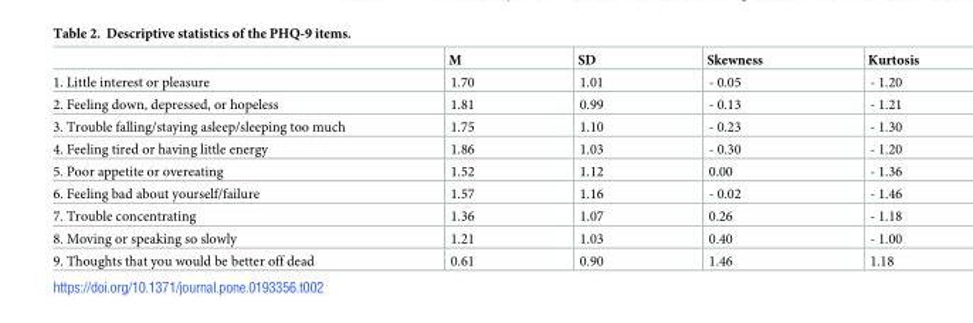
<table><thead><tr><td></td><td>M</td><td>SD</td><td>Skewness</td><td>Kurtosis</td></tr></thead><tbody><tr><td>1. Little interest or pleasure</td><td>1.70</td><td>1.01</td><td>- 0.05</td><td>- 1.20</td></tr><tr><td>2. Feeling down, depressed, or hopeless</td><td>1.81</td><td>0.99</td><td>- 0.13</td><td>- 1.21</td></tr><tr><td>3. Trouble falling/staying asleep/sleeping too much</td><td>1.75</td><td>1.10</td><td>- 0.23</td><td>- 1.30</td></tr><tr><td>4. Feeling tired or having little energy</td><td>1.86</td><td>1.03</td><td>- 0.30</td><td>- 1.20</td></tr><tr><td>5. Poor appetite or overeating</td><td>1.52</td><td>1.12</td><td>0.00</td><td>- 1.36</td></tr><tr><td>6. Feeling bad about yourself/failure</td><td>1.57</td><td>1.16</td><td>- 0.02</td><td>- 1.46</td></tr><tr><td>7. Trouble concentrating</td><td>1.36</td><td>1.07</td><td>0.26</td><td>- 1.18</td></tr><tr><td>8. Moving or speaking so slowly</td><td>1.21</td><td>1.03</td><td>0.40</td><td>- 1.00</td></tr><tr><td>9. Thoughts that you would be better off dead</td><td>0.61</td><td>0.90</td><td>1.46</td><td>1.18</td></tr></tbody></table>